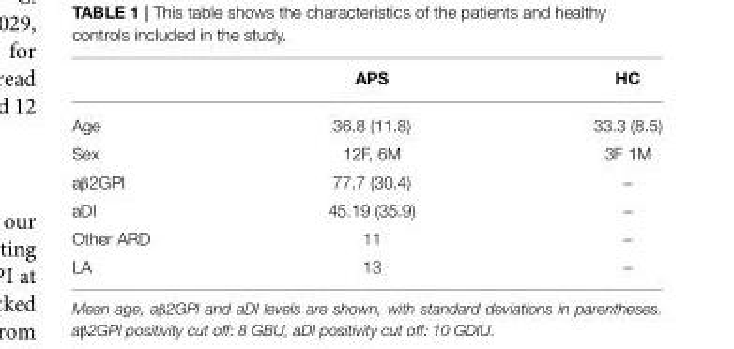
<table><thead><tr><td></td><td>APS</td><td>HC</td></tr></thead><tbody><tr><td>Age</td><td>36.8 (11.8)</td><td>33.3 (8.5)</td></tr><tr><td>Sex</td><td>12F, 6M</td><td>3F 1M</td></tr><tr><td>aβ2GPI</td><td>77.7 (30.4)</td><td>–</td></tr><tr><td>aDI</td><td>45.19 (35.9)</td><td>–</td></tr><tr><td>Other ARD</td><td>11</td><td>–</td></tr><tr><td>LA</td><td>13</td><td>–</td></tr></tbody></table>